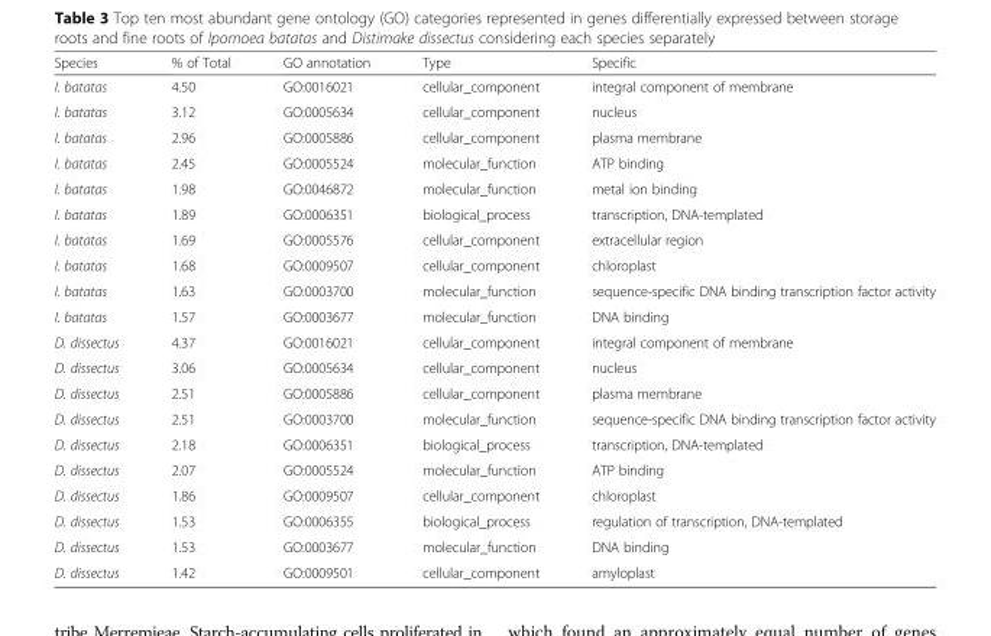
<table><thead><tr><td>Species</td><td>% of Total</td><td>GO annotation</td><td>Type</td><td>Specific</td></tr></thead><tbody><tr><td>I. batatas</td><td>4.50</td><td>GO:0016021</td><td>cellular_component</td><td>integral component of membrane</td></tr><tr><td>I. batatas</td><td>3.12</td><td>GO:0005634</td><td>cellular_component</td><td>nucleus</td></tr><tr><td>I. batatas</td><td>2.96</td><td>GO:0005886</td><td>cellular_component</td><td>plasma membrane</td></tr><tr><td>I. batatas</td><td>2.45</td><td>GO:0005524</td><td>molecular_function</td><td>ATP binding</td></tr><tr><td>I. batatas</td><td>1.98</td><td>GO:0046872</td><td>molecular_function</td><td>metal ion binding</td></tr><tr><td>I. batatas</td><td>1.89</td><td>GO:0006351</td><td>biological_process</td><td>transcription, DNA-templated</td></tr><tr><td>I. batatas</td><td>1.69</td><td>GO:0005576</td><td>cellular_component</td><td>extracellular region</td></tr><tr><td>I. batatas</td><td>1.68</td><td>GO:0009507</td><td>cellular_component</td><td>chloroplast</td></tr><tr><td>I. batatas</td><td>1.63</td><td>GO:0003700</td><td>molecular_function</td><td>sequence-specific DNA binding transcription factor activity</td></tr><tr><td>I. batatas</td><td>1.57</td><td>GO:0003677</td><td>molecular_function</td><td>DNA binding</td></tr><tr><td>D. dissectus</td><td>4.37</td><td>GO:0016021</td><td>cellular_component</td><td>integral component of membrane</td></tr><tr><td>D. dissectus</td><td>3.06</td><td>GO:0005634</td><td>cellular_component</td><td>nucleus</td></tr><tr><td>D. dissectus</td><td>2.51</td><td>GO:0005886</td><td>cellular_component</td><td>plasma membrane</td></tr><tr><td>D. dissectus</td><td>2.51</td><td>GO:0003700</td><td>molecular_function</td><td>sequence-specific DNA binding transcription factor activity</td></tr><tr><td>D. dissectus</td><td>2.18</td><td>GO:0006351</td><td>biological_process</td><td>transcription, DNA-templated</td></tr><tr><td>D. dissectus</td><td>2.07</td><td>GO:0005524</td><td>molecular_function</td><td>ATP binding</td></tr><tr><td>D. dissectus</td><td>1.86</td><td>GO:0009507</td><td>cellular_component</td><td>chloroplast</td></tr><tr><td>D. dissectus</td><td>1.53</td><td>GO:0006355</td><td>biological_process</td><td>regulation of transcription, DNA-templated</td></tr><tr><td>D. dissectus</td><td>1.53</td><td>GO:0003677</td><td>molecular_function</td><td>DNA binding</td></tr><tr><td>D. dissectus</td><td>1.42</td><td>GO:0009501</td><td>cellular_component</td><td>amyloplast</td></tr></tbody></table>